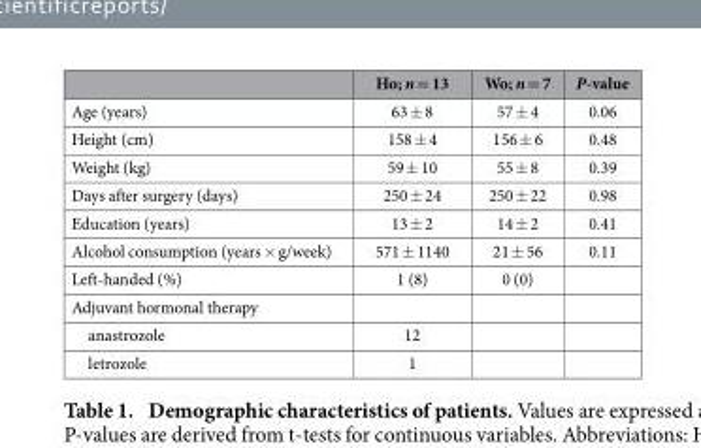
<table><thead><tr><td></td><td>Ho; n = 13</td><td>Wo; n = 7</td><td>P-value</td></tr></thead><tbody><tr><td>Age (years)</td><td>63 ± 8</td><td>57 ± 4</td><td>0.06</td></tr><tr><td>Height (cm)</td><td>158 ± 4</td><td>156 ± 6</td><td>0.48</td></tr><tr><td>Weight (kg)</td><td>59 ± 10</td><td>55 ± 8</td><td>0.39</td></tr><tr><td>Days after surgery (days)</td><td>250 ± 24</td><td>250 ± 22</td><td>0.98</td></tr><tr><td>Education (years)</td><td>13 ± 2</td><td>14 ± 2</td><td>0.41</td></tr><tr><td>Alcohol consumption (years × g/week)</td><td>571 ± 1140</td><td>21 ± 56</td><td>0.11</td></tr><tr><td>Left-handed (%)</td><td>1 (8)</td><td>0 (0)</td><td></td></tr><tr><td colspan="4">Adjuvant hormonal therapy</td></tr><tr><td>anastrozole</td><td>12</td><td></td><td></td></tr><tr><td>letrozole</td><td>1</td><td></td><td></td></tr></tbody></table>